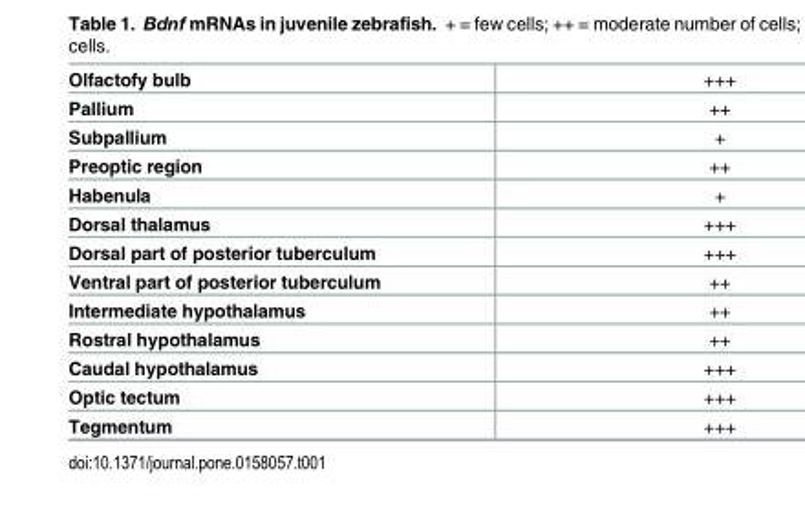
<table><tbody><tr><td>Olfactofy bulb</td><td>+++</td></tr><tr><td>Pallium</td><td>++</td></tr><tr><td>Subpallium</td><td>+</td></tr><tr><td>Preoptic region</td><td>++</td></tr><tr><td>Habenula</td><td>+</td></tr><tr><td>Dorsal thalamus</td><td>+++</td></tr><tr><td>Dorsal part of posterior tuberculum</td><td>+++</td></tr><tr><td>Ventral part of posterior tuberculum</td><td>++</td></tr><tr><td>Intermediate hypothalamus</td><td>++</td></tr><tr><td>Rostral hypothalamus</td><td>++</td></tr><tr><td>Caudal hypothalamus</td><td>+++</td></tr><tr><td>Optic tectum</td><td>+++</td></tr><tr><td>Tegmentum</td><td>+++</td></tr></tbody></table>